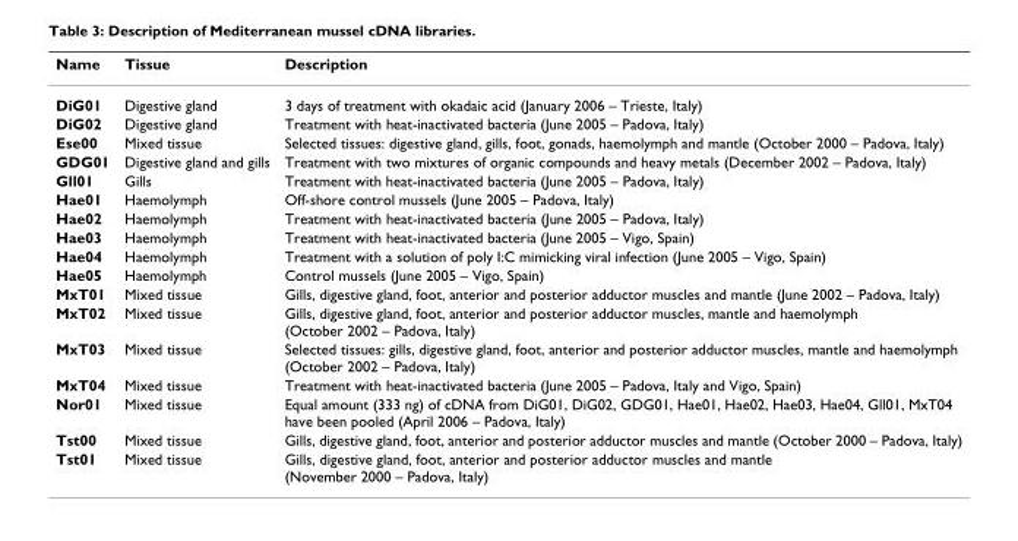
<table><thead><tr><td>Name</td><td>Tissue</td><td>Description</td></tr></thead><tbody><tr><td>DiG01</td><td>Digestive gland</td><td>3 days of treatment with okadaic acid (January 2006 – Trieste, Italy)</td></tr><tr><td>DiG02</td><td>Digestive gland</td><td>Treatment with heat-inactivated bacteria (June 2005 – Padova, Italy)</td></tr><tr><td>Ese00</td><td>Mixed tissue</td><td>Selected tissues: digestive gland, gills, foot, gonads, haemolymph and mantle (October 2000 – Padova, Italy)</td></tr><tr><td>GDG01</td><td>Digestive gland and gills</td><td>Treatment with two mixtures of organic compounds and heavy metals (December 2002 – Padova, Italy)</td></tr><tr><td>Gll01</td><td>Gills</td><td>Treatment with heat-inactivated bacteria (June 2005 – Padova, Italy)</td></tr><tr><td>Hae01</td><td>Haemolymph</td><td>Off-shore control mussels (June 2005 – Padova, Italy)</td></tr><tr><td>Hae02</td><td>Haemolymph</td><td>Treatment with heat-inactivated bacteria (June 2005 – Padova, Italy)</td></tr><tr><td>Hae03</td><td>Haemolymph</td><td>Treatment with heat-inactivated bacteria (June 2005 – Vigo, Spain)</td></tr><tr><td>Hae04</td><td>Haemolymph</td><td>Treatment with a solution of poly I:C mimicking viral infection (June 2005 – Vigo, Spain)</td></tr><tr><td>Hae05</td><td>Haemolymph</td><td>Control mussels (June 2005 – Vigo, Spain)</td></tr><tr><td>MxT01</td><td>Mixed tissue</td><td>Gills, digestive gland, foot, anterior and posterior adductor muscles and mantle (June 2002 – Padova, Italy)</td></tr><tr><td>MxT02</td><td>Mixed tissue</td><td>Gills, digestive gland, foot, anterior and posterior adductor muscles, mantle and haemolymph (October 2002 – Padova, Italy)</td></tr><tr><td>MxT03</td><td>Mixed tissue</td><td>Selected tissues: gills, digestive gland, foot, anterior and posterior adductor muscles, mantle and haemolymph (October 2002 – Padova, Italy)</td></tr><tr><td>MxT04</td><td>Mixed tissue</td><td>Treatment with heat-inactivated bacteria (June 2005 – Padova, Italy and Vigo, Spain)</td></tr><tr><td>Nor01</td><td>Mixed tissue</td><td>Equal amount (333 ng) of cDNA from DiG01, DiG02, GDG01, Hae01, Hae02, Hae03, Hae04, Gll01, MxT04 have been pooled (April 2006 – Padova, Italy)</td></tr><tr><td>Tst00</td><td>Mixed tissue</td><td>Gills, digestive gland, foot, anterior and posterior adductor muscles and mantle (October 2000 – Padova, Italy)</td></tr><tr><td>Tst01</td><td>Mixed tissue</td><td>Gills, digestive gland, foot, anterior and posterior adductor muscles and mantle (November 2000 – Padova, Italy)</td></tr></tbody></table>